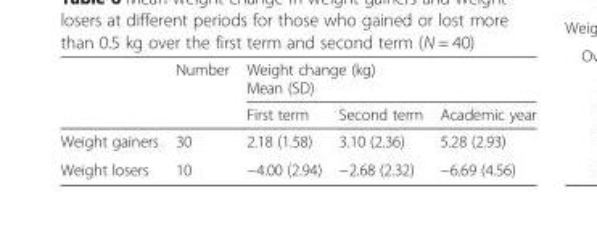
<table><thead><tr><td rowspan="2"></td><td rowspan="2">Number</td><td colspan="3">Weight change (kg) Mean (SD)</td></tr><tr><td>First term</td><td>Second term</td><td>Academic year</td></tr></thead><tbody><tr><td>Weight gainers</td><td>30</td><td>2.18 (1.58)</td><td>3.10 (2.36)</td><td>5.28 (2.93)</td></tr><tr><td>Weight losers</td><td>10</td><td>−4.00 (2.94)</td><td>−2.68 (2.32)</td><td>−6.69 (4.56)</td></tr></tbody></table>